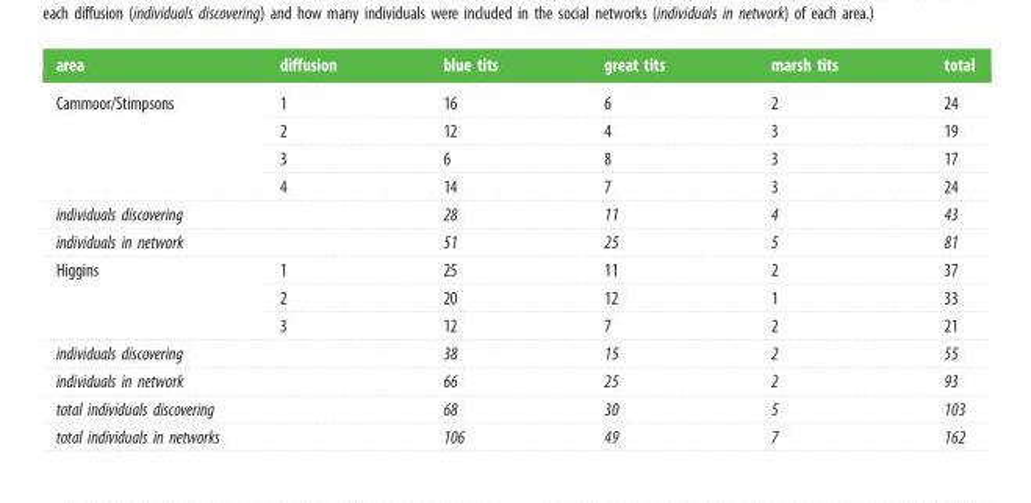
<table><thead><tr><td>area</td><td>diffusion</td><td>blue tits</td><td>great tits</td><td>marsh tits</td><td>total</td></tr></thead><tbody><tr><td rowspan="4">Cammoor/Stimpsons</td><td>1</td><td>16</td><td>6</td><td>2</td><td>24</td></tr><tr><td>2</td><td>12</td><td>4</td><td>3</td><td>19</td></tr><tr><td>3</td><td>6</td><td>8</td><td>3</td><td>17</td></tr><tr><td>4</td><td>14</td><td>7</td><td>3</td><td>24</td></tr><tr><td colspan="2">individuals discovering</td><td>28</td><td>11</td><td>4</td><td>43</td></tr><tr><td colspan="2">individuals in network</td><td>51</td><td>25</td><td>5</td><td>81</td></tr><tr><td rowspan="3">Higgins</td><td>1</td><td>25</td><td>11</td><td>2</td><td>37</td></tr><tr><td>2</td><td>20</td><td>12</td><td>1</td><td>33</td></tr><tr><td>3</td><td>12</td><td>7</td><td>2</td><td>21</td></tr><tr><td colspan="2">individuals discovering</td><td>38</td><td>15</td><td>2</td><td>55</td></tr><tr><td colspan="2">individuals in network</td><td>66</td><td>25</td><td>2</td><td>93</td></tr><tr><td colspan="2">total individuals discovering</td><td>68</td><td>30</td><td>5</td><td>103</td></tr><tr><td colspan="2">total individuals in networks</td><td>106</td><td>49</td><td>7</td><td>162</td></tr></tbody></table>